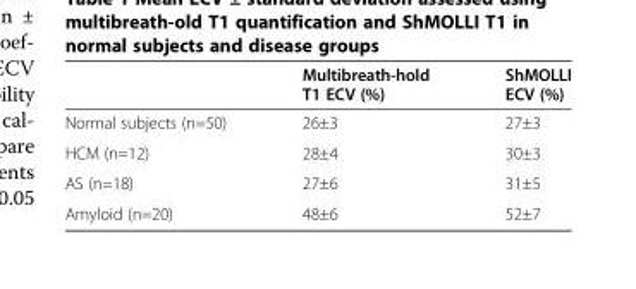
<table><thead><tr><td></td><td>Multibreath-hold T1 ECV (%)</td><td>ShMOLLI ECV (%)</td></tr></thead><tbody><tr><td>Normal subjects (n=50)</td><td>26±3</td><td>27±3</td></tr><tr><td>HCM (n=12)</td><td>28±4</td><td>30±3</td></tr><tr><td>AS (n=18)</td><td>27±6</td><td>31±5</td></tr><tr><td>Amyloid (n=20)</td><td>48±6</td><td>52±7</td></tr></tbody></table>